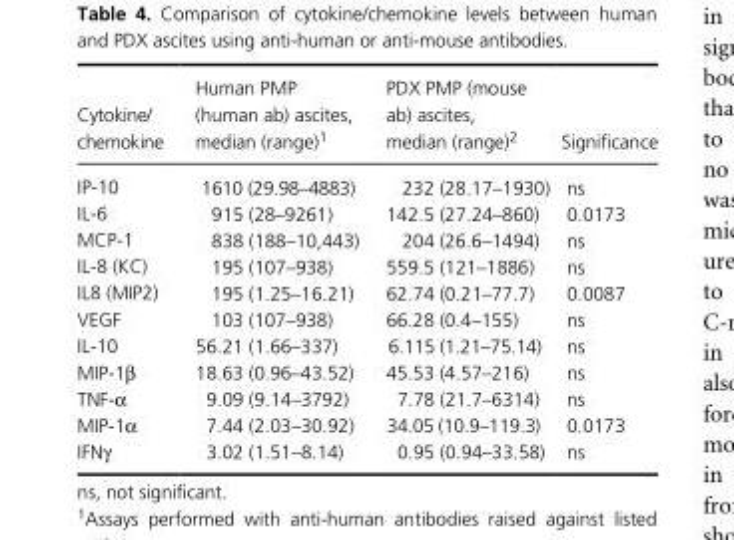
<table><thead><tr><td>Cytokine/ chemokine</td><td>Human PMP (human ab) ascites, median (range)1</td><td>PDX PMP (mouse ab) ascites, median (range)2</td><td>Significance</td></tr></thead><tbody><tr><td>IP- 10</td><td>1610 (29.98–4883)</td><td>232 (28.17–1930)</td><td>ns</td></tr><tr><td>IL- 6</td><td>915 (28–9261)</td><td>142.5 (27.24–860)</td><td>0.0173</td></tr><tr><td>MCP- 1</td><td>838 (188–10,443)</td><td>204 (26.6–1494)</td><td>ns</td></tr><tr><td>IL- 8 (KC)</td><td>195 (107–938)</td><td>559.5 (121–1886)</td><td>ns</td></tr><tr><td>IL8 (MIP2)</td><td>195 (1.25–16.21)</td><td>62.74 (0.21–77.7)</td><td>0.0087</td></tr><tr><td>VEGF</td><td>103 (107–938)</td><td>66.28 (0.4–155)</td><td>ns</td></tr><tr><td>IL- 10</td><td>56.21 (1.66–337)</td><td>6.115 (1.21–75.14)</td><td>ns</td></tr><tr><td>MIP- 1β</td><td>18.63 (0.96–43.52)</td><td>45.53 (4.57–216)</td><td>ns</td></tr><tr><td>TNF- α</td><td>9.09 (9.14–3792)</td><td>7.78 (21.7–6314)</td><td>ns</td></tr><tr><td>MIP- 1α</td><td>7.44 (2.03–30.92)</td><td>34.05 (10.9–119.3)</td><td>0.0173</td></tr><tr><td>IFNγ</td><td>3.02 (1.51–8.14)</td><td>0.95 (0.94–33.58)</td><td>ns</td></tr></tbody></table>